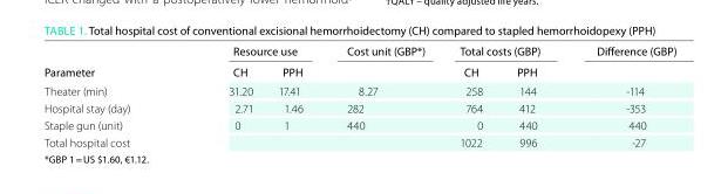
<table><thead><tr><td rowspan="2">Parameter</td><td colspan="2">Resource use</td><td rowspan="2">Cost unit (GBP*)</td><td colspan="2">total costs (GBP)</td><td rowspan="2">Difference (GBP)</td></tr><tr><td>Ch</td><td>PPh</td><td>Ch</td><td>PPh</td></tr></thead><tbody><tr><td>Theater (min)</td><td>31.20</td><td>17.41</td><td>8.27</td><td>258</td><td>144</td><td>-114</td></tr><tr><td>Hospital stay (day)</td><td>2.71</td><td>1.46</td><td>282</td><td>764</td><td>412</td><td>-353</td></tr><tr><td>Staple gun (unit)</td><td>0</td><td>1</td><td>440</td><td>0</td><td>440</td><td>440</td></tr><tr><td>Total hospital cost</td><td></td><td></td><td></td><td>1022</td><td>996</td><td>-27</td></tr></tbody></table>